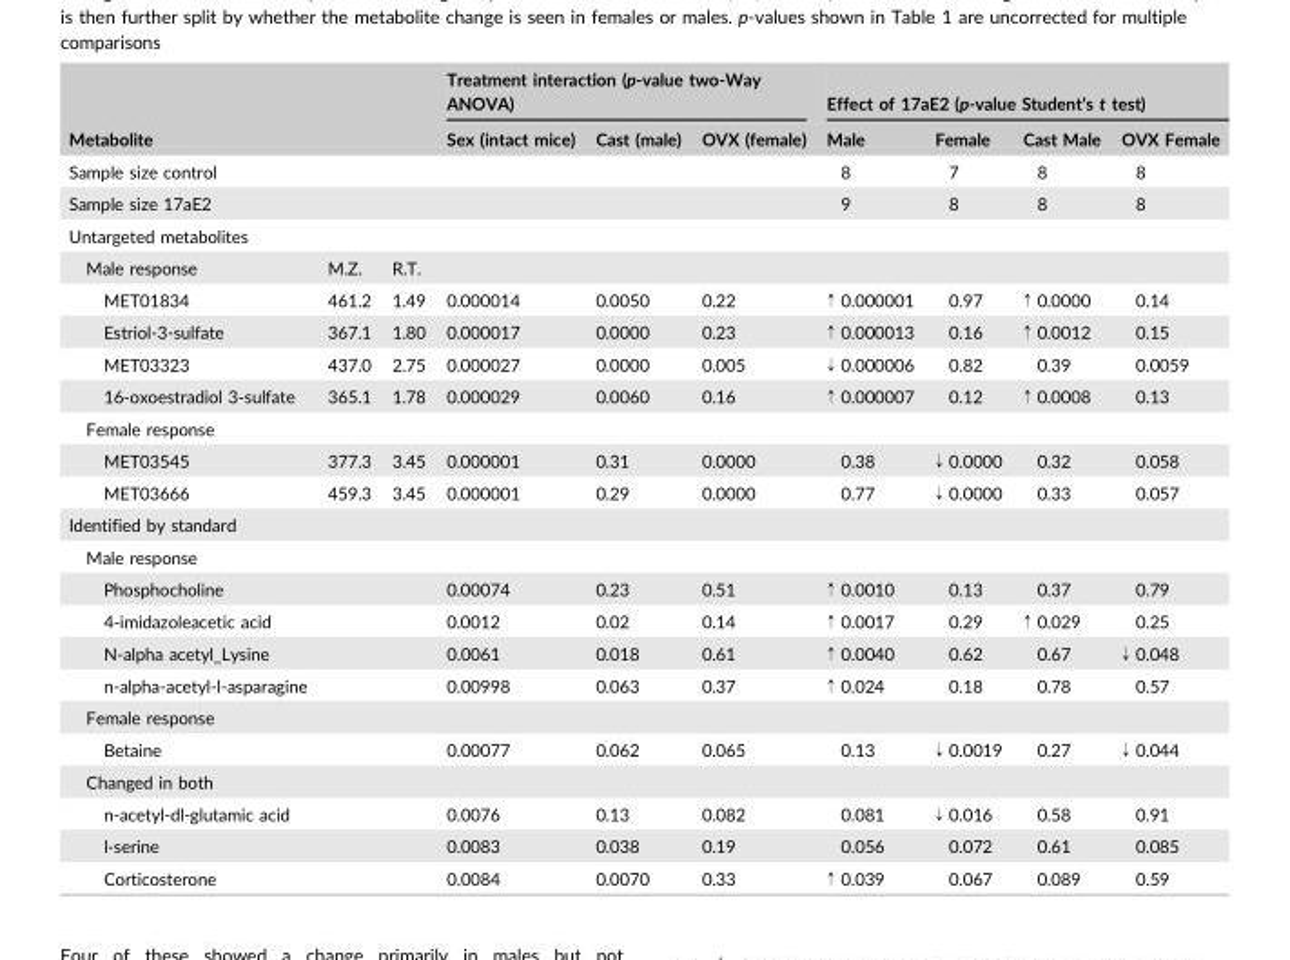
<table><thead><tr><td rowspan="2">Metabolite</td><td rowspan="2"></td><td rowspan="2"></td><td colspan="3">Treatment interaction (p-value two-Way ANOVA)</td><td colspan="4">Effect of 17aE2 (p-value Student’s t test)</td></tr><tr><td>Sex (intact mice)</td><td>Cast (male)</td><td>OVX (female)</td><td>Male</td><td>Female</td><td>Cast Male</td><td>OVX Female</td></tr></thead><tbody><tr><td>Sample size control</td><td></td><td></td><td></td><td></td><td></td><td>8</td><td>7</td><td>8</td><td>8</td></tr><tr><td>Sample size 17aE2</td><td></td><td></td><td></td><td></td><td></td><td>9</td><td>8</td><td>8</td><td>8</td></tr><tr><td colspan="10">Untargeted metabolites</td></tr><tr><td>Male response</td><td>M.Z.</td><td>R.T.</td><td></td><td></td><td></td><td></td><td></td><td></td><td></td></tr><tr><td>MET01834</td><td>461.2</td><td>1.49</td><td>0.000014</td><td>0.0050</td><td>0.22</td><td>↑ 0.000001</td><td>0.97</td><td>↑ 0.0000</td><td>0.14</td></tr><tr><td>Estriol-3-sulfate</td><td>367.1</td><td>1.80</td><td>0.000017</td><td>0.0000</td><td>0.23</td><td>↑ 0.000013</td><td>0.16</td><td>↑ 0.0012</td><td>0.15</td></tr><tr><td>MET03323</td><td>437.0</td><td>2.75</td><td>0.000027</td><td>0.0000</td><td>0.005</td><td>↓ 0.000006</td><td>0.82</td><td>0.39</td><td>0.0059</td></tr><tr><td>16-oxoestradiol 3-sulfate</td><td>365.1</td><td>1.78</td><td>0.000029</td><td>0.0060</td><td>0.16</td><td>↑ 0.000007</td><td>0.12</td><td>↑ 0.0008</td><td>0.13</td></tr><tr><td colspan="10">Female response</td></tr><tr><td>MET03545</td><td>377.3</td><td>3.45</td><td>0.000001</td><td>0.31</td><td>0.0000</td><td>0.38</td><td>↓ 0.0000</td><td>0.32</td><td>0.058</td></tr><tr><td>MET03666</td><td>459.3</td><td>3.45</td><td>0.000001</td><td>0.29</td><td>0.0000</td><td>0.77</td><td>↓ 0.0000</td><td>0.33</td><td>0.057</td></tr><tr><td colspan="10">Identified by standard</td></tr><tr><td colspan="10">Male response</td></tr><tr><td>Phosphocholine</td><td></td><td></td><td>0.00074</td><td>0.23</td><td>0.51</td><td>↑ 0.0010</td><td>0.13</td><td>0.37</td><td>0.79</td></tr><tr><td>4-imidazoleacetic acid</td><td></td><td></td><td>0.0012</td><td>0.02</td><td>0.14</td><td>↑ 0.0017</td><td>0.29</td><td>↑ 0.029</td><td>0.25</td></tr><tr><td>N-alpha acetyl_Lysine</td><td></td><td></td><td>0.0061</td><td>0.018</td><td>0.61</td><td>↑ 0.0040</td><td>0.62</td><td>0.67</td><td>↓ 0.048</td></tr><tr><td>n-alpha-acetyl-l-asparagine</td><td></td><td></td><td>0.00998</td><td>0.063</td><td>0.37</td><td>↑ 0.024</td><td>0.18</td><td>0.78</td><td>0.57</td></tr><tr><td colspan="10">Female response</td></tr><tr><td>Betaine</td><td></td><td></td><td>0.00077</td><td>0.062</td><td>0.065</td><td>0.13</td><td>↓ 0.0019</td><td>0.27</td><td>↓ 0.044</td></tr><tr><td colspan="10">Changed in both</td></tr><tr><td>n-acetyl-dl-glutamic acid</td><td></td><td></td><td>0.0076</td><td>0.13</td><td>0.082</td><td>0.081</td><td>↓ 0.016</td><td>0.58</td><td>0.91</td></tr><tr><td>l-serine</td><td></td><td></td><td>0.0083</td><td>0.038</td><td>0.19</td><td>0.056</td><td>0.072</td><td>0.61</td><td>0.085</td></tr><tr><td>Corticosterone</td><td></td><td></td><td>0.0084</td><td>0.0070</td><td>0.33</td><td>↑ 0.039</td><td>0.067</td><td>0.089</td><td>0.59</td></tr></tbody></table>